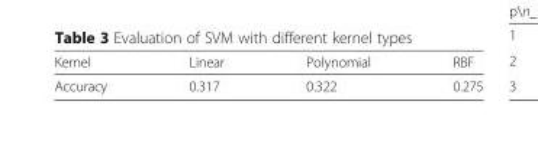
<table><thead><tr><td>Kernel</td><td>Linear</td><td>Polynomial</td><td>RBF</td></tr></thead><tbody><tr><td>Accuracy</td><td>0.317</td><td>0.322</td><td>0.275</td></tr></tbody></table>